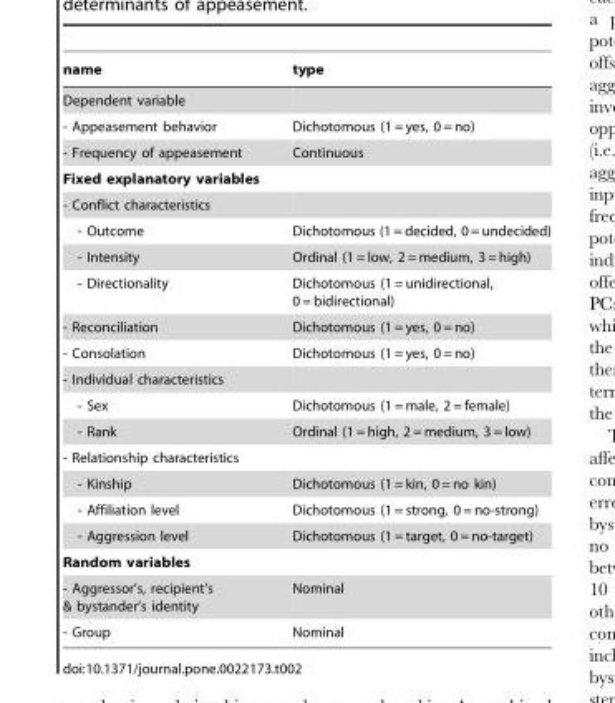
<table><thead><tr><td>name</td><td>type</td></tr></thead><tbody><tr><td colspan="2">Dependent variable</td></tr><tr><td>- Appeasement behavior</td><td>Dichotomous (1 = yes, 0 = no)</td></tr><tr><td>- Frequency of appeasement</td><td>Continuous</td></tr><tr><td colspan="2">Fixed explanatory variables</td></tr><tr><td colspan="2">- Conflict characteristics</td></tr><tr><td>- Outcome</td><td>Dichotomous (1 = decided, 0 = undecided)</td></tr><tr><td>- Intensity</td><td>Ordinal (1 = low, 2 = medium, 3 = high)</td></tr><tr><td>- Directionality</td><td>Dichotomous (1 = unidirectional, 0 = bidirectional)</td></tr><tr><td>- Reconciliation</td><td>Dichotomous (1 = yes, 0 = no)</td></tr><tr><td>- Consolation</td><td>Dichotomous (1 = yes, 0 = no)</td></tr><tr><td colspan="2">- Individual characteristics</td></tr><tr><td>- Sex</td><td>Dichotomous (1 = male, 2 = female)</td></tr><tr><td>- Rank</td><td>Ordinal (1 = high, 2 = medium, 3 = low)</td></tr><tr><td colspan="2">- Relationship characteristics</td></tr><tr><td>- Kinship</td><td>Dichotomous (1 = kin, 0 = no kin)</td></tr><tr><td>- Affiliation level</td><td>Dichotomous (1 = strong, 0 = no-strong)</td></tr><tr><td>- Aggression level</td><td>Dichotomous (1 = target, 0 = no-target)</td></tr><tr><td colspan="2">Random variables</td></tr><tr><td>- Aggressor’s, recipient’s &amp; bystander’s identity</td><td>Nominal</td></tr><tr><td>- Group</td><td>Nominal</td></tr></tbody></table>